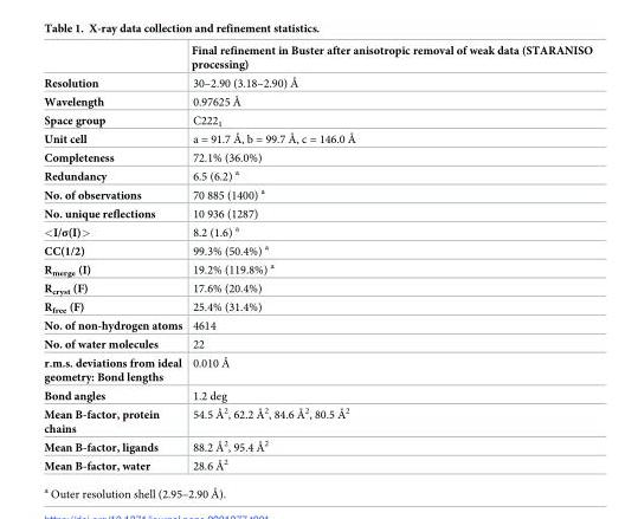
<table><thead><tr><td></td><td>Final refinement in Buster after anisotropic removal of weak data (STARANISO processing)</td></tr></thead><tbody><tr><td>Resolution</td><td>30–2.90 (3.18–2.90) Å</td></tr><tr><td>Wavelength</td><td>0.97625 Å</td></tr><tr><td>Space group</td><td>C222<sub>1</sub></td></tr><tr><td>Unit cell</td><td>a = 91.7 Å, b = 99.7 Å, c = 146.0 Å</td></tr><tr><td>Completeness</td><td>72.1% (36.0%)</td></tr><tr><td>Redundancy</td><td>6.5 (6.2) <sup>a</sup></td></tr><tr><td>No. of observations</td><td>70 885 (1400) <sup>a</sup></td></tr><tr><td>No. unique reflections</td><td>10 936 (1287)</td></tr><tr><td>&lt;I/σ(I)&gt;</td><td>8.2 (1.6) <sup>a</sup></td></tr><tr><td>CC(1/2)</td><td>99.3% (50.4%) <sup>a</sup></td></tr><tr><td>R<sub>merge</sub> (I)</td><td>19.2% (119.8%) <sup>a</sup></td></tr><tr><td>R<sub>cryst</sub> (F)</td><td>17.6% (20.4%)</td></tr><tr><td>R<sub>free</sub> (F)</td><td>25.4% (31.4%)</td></tr><tr><td>No. of non-hydrogen atoms</td><td>4614</td></tr><tr><td>No. of water molecules</td><td>22</td></tr><tr><td>r.m.s. deviations from ideal geometry: Bond lengths</td><td>0.010 Å</td></tr><tr><td>Bond angles</td><td>1.2 deg</td></tr><tr><td>Mean B-factor, protein chains</td><td>54.5 Å<sup>2</sup>, 62.2 Å<sup>2</sup>, 84.6 Å<sup>2</sup>, 80.5 Å<sup>2</sup></td></tr><tr><td>Mean B-factor, ligands</td><td>88.2 Å<sup>2</sup>, 95.4 Å<sup>2</sup></td></tr><tr><td>Mean B-factor, water</td><td>28.6 Å<sup>2</sup></td></tr></tbody></table>